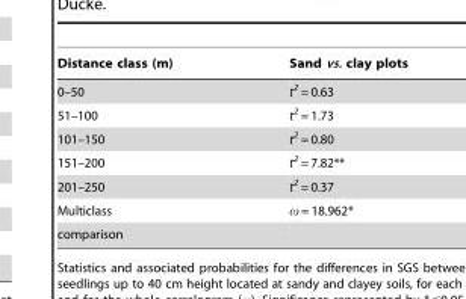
<table><thead><tr><td>Distance class (m)</td><td>Sand vs. clay plots</td></tr></thead><tbody><tr><td>0–50</td><td>t<sup>2</sup> = 0.63</td></tr><tr><td>51–100</td><td>t<sup>2</sup> = 1.73</td></tr><tr><td>101–150</td><td>t<sup>2</sup> = 0.80</td></tr><tr><td>151–200</td><td>t<sup>2</sup> = 7.82**</td></tr><tr><td>201–250</td><td>t<sup>2</sup> = 0.37</td></tr><tr><td>Multiclass</td><td>ω = 18.962*</td></tr><tr><td>comparison</td><td></td></tr></tbody></table>